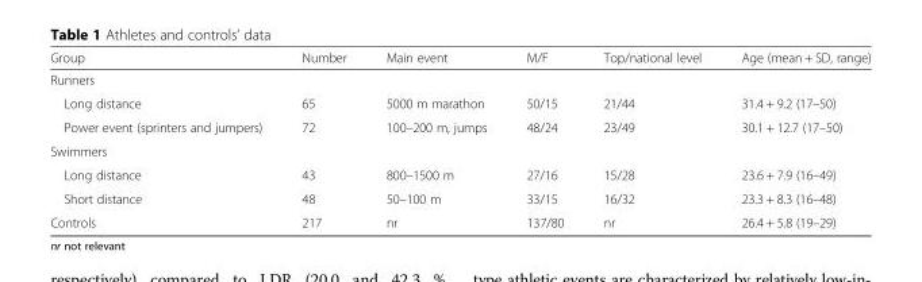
<table><thead><tr><td>Group</td><td>Number</td><td>Main event</td><td>M/F</td><td>Top/national level</td><td>Age (mean + SD, range)</td></tr></thead><tbody><tr><td colspan="6">Runners</td></tr><tr><td>Long distance</td><td>65</td><td>5000 m marathon</td><td>50/15</td><td>21/44</td><td>31.4 + 9.2 (17–50)</td></tr><tr><td>Power event (sprinters and jumpers)</td><td>72</td><td>100–200 m, jumps</td><td>48/24</td><td>23/49</td><td>30.1 + 12.7 (17–50)</td></tr><tr><td colspan="6">Swimmers</td></tr><tr><td>Long distance</td><td>43</td><td>800–1500 m</td><td>27/16</td><td>15/28</td><td>23.6 + 7.9 (16–49)</td></tr><tr><td>Short distance</td><td>48</td><td>50–100 m</td><td>33/15</td><td>16/32</td><td>23.3 + 8.3 (16–48)</td></tr><tr><td>Controls</td><td>217</td><td>nr</td><td>137/80</td><td>nr</td><td>26.4 + 5.8 (19–29)</td></tr></tbody></table>